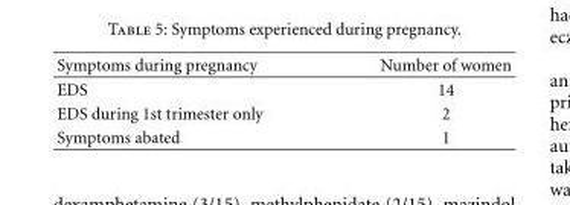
<table><thead><tr><td>Symptoms during pregnancy</td><td>Number of women</td></tr></thead><tbody><tr><td>EDS</td><td>14</td></tr><tr><td>EDS during 1st trimester only</td><td>2</td></tr><tr><td>Symptoms abated</td><td>1</td></tr></tbody></table>